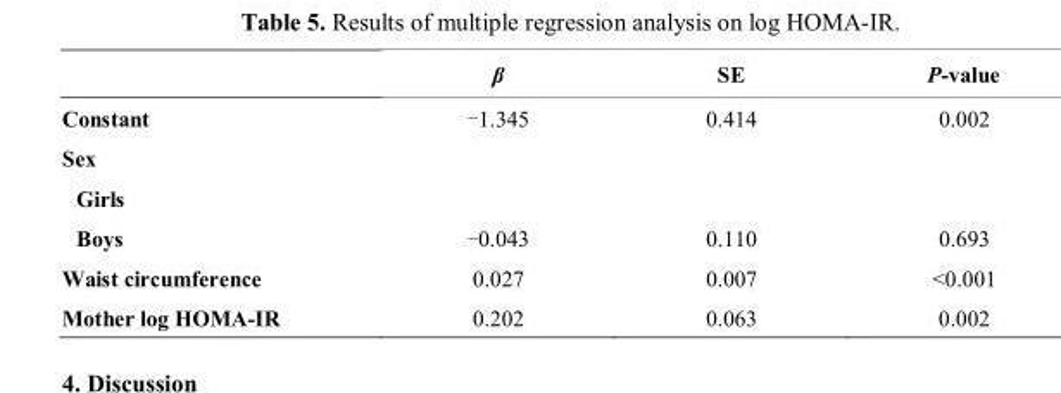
<table><thead><tr><td></td><td>β</td><td>SE</td><td>P-value</td></tr></thead><tbody><tr><td>Constant</td><td>-1.345</td><td>0.414</td><td>0.002</td></tr><tr><td colspan="4">Sex</td></tr><tr><td colspan="4">Girls</td></tr><tr><td>Boys</td><td>-0.043</td><td>0.110</td><td>0.693</td></tr><tr><td>Waist circumference</td><td>0.027</td><td>0.007</td><td>&lt;0.001</td></tr><tr><td>Mother log HOMA-IR</td><td>0.202</td><td>0.063</td><td>0.002</td></tr></tbody></table>